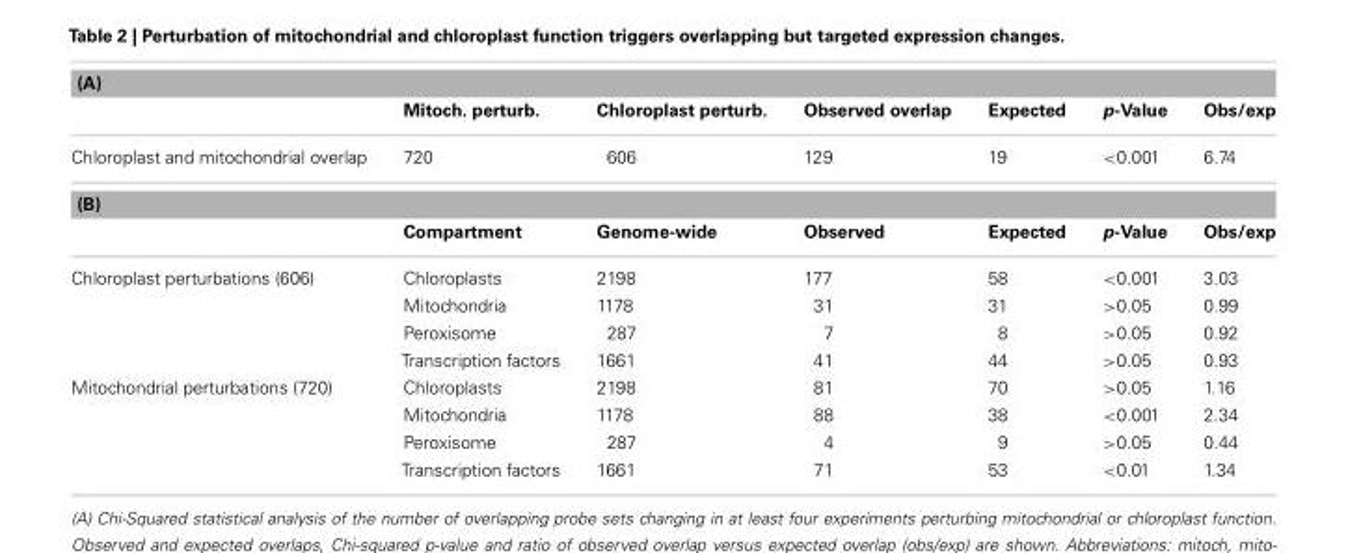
<table><thead><tr><td colspan="7">(A)</td></tr><tr><td></td><td>Mitoch. perturb.</td><td>Chloroplast perturb.</td><td>Observed overlap</td><td>Expected</td><td>p-Value</td><td>Obs/exp</td></tr></thead><tbody><tr><td>Chloroplast and mitochondrial overlap</td><td>720</td><td>606</td><td>129</td><td>19</td><td>&lt;0.001</td><td>6.74</td></tr><tr><td colspan="7">(B)</td></tr><tr><td></td><td>Compartment</td><td>Genome-wide</td><td>Observed</td><td>Expected</td><td>p-Value</td><td>Obs/exp</td></tr><tr><td rowspan="4">Chloroplast perturbations (606)</td><td>Chloroplasts</td><td>2198</td><td>177</td><td>58</td><td>&lt;0.001</td><td>3.03</td></tr><tr><td>Mitochondria</td><td>1178</td><td>31</td><td>31</td><td>&gt;0.05</td><td>0.99</td></tr><tr><td>Peroxisome</td><td>287</td><td>7</td><td>8</td><td>&gt;0.05</td><td>0.92</td></tr><tr><td>Transcription factors</td><td>1661</td><td>41</td><td>44</td><td>&gt;0.05</td><td>0.93</td></tr><tr><td rowspan="4">Mitochondrial perturbations (720)</td><td>Chloroplasts</td><td>2198</td><td>81</td><td>70</td><td>&gt;0.05</td><td>1.16</td></tr><tr><td>Mitochondria</td><td>1178</td><td>88</td><td>38</td><td>&lt;0.001</td><td>2.34</td></tr><tr><td>Peroxisome</td><td>287</td><td>4</td><td>9</td><td>&gt;0.05</td><td>0.44</td></tr><tr><td>Transcription factors</td><td>1661</td><td>71</td><td>53</td><td>&lt;0.01</td><td>1.34</td></tr></tbody></table>